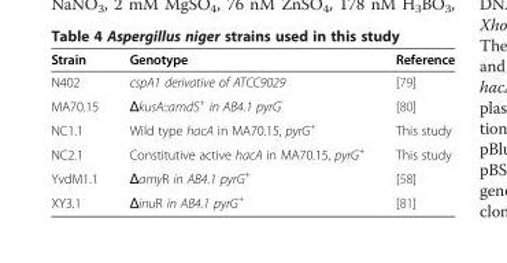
<table><thead><tr><td>Strain</td><td>Genotype</td><td>Reference</td></tr></thead><tbody><tr><td>N402</td><td>cspA1 derivative of ATCC9029</td><td>[79]</td></tr><tr><td>MA70.15</td><td>ΔkusA::amdS<sup>+</sup> in AB4.1 pyrG<sup>-</sup></td><td>[80]</td></tr><tr><td>NC1.1</td><td>Wild type hacA in MA70.15, pyrG<sup>+</sup></td><td>This study</td></tr><tr><td>NC2.1</td><td>Constitutive active hacA in MA70.15, pyrG<sup>+</sup></td><td>This study</td></tr><tr><td>YvdM1.1</td><td>ΔamyR in AB4.1 pyrG<sup>+</sup></td><td>[58]</td></tr><tr><td>XY3.1</td><td>ΔinuR in AB4.1 pyrG<sup>+</sup></td><td>[81]</td></tr></tbody></table>